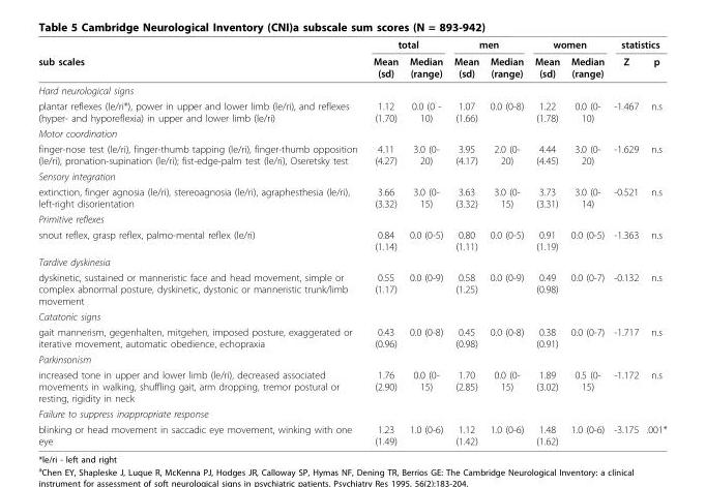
<table><thead><tr><td rowspan="2">sub scales</td><td colspan="2">total</td><td colspan="2">men</td><td colspan="2">women</td><td colspan="2">statistics</td></tr><tr><td>Mean (sd)</td><td>Median (range)</td><td>Mean (sd)</td><td>Median (range)</td><td>Mean (sd)</td><td>Median (range)</td><td>Z</td><td>p</td></tr></thead><tbody><tr><td colspan="9">Hard neurological signs</td></tr><tr><td>plantar reflexes (le/ri*), power in upper and lower limb (le/ri), and reflexes (hyper- and hyporeflexia) in upper and lower limb (le/ri)</td><td>1.12 (1.70)</td><td>0.0 (0 - 10)</td><td>1.07 (1.66)</td><td>0.0 (0-8)</td><td>1.22 (1.78)</td><td>0.0 (0- 10)</td><td>-1.467</td><td>n.s</td></tr><tr><td colspan="9">Motor coordination</td></tr><tr><td>finger-nose test (le/ri), finger-thumb tapping (le/ri), finger-thumb opposition (le/ri), pronation-supination (le/ri); fist-edge-palm test (le/ri), Oseretsky test</td><td>4.11 (4.27)</td><td>3.0 (0- 20)</td><td>3.95 (4.17)</td><td>2.0 (0- 20)</td><td>4.44 (4.45)</td><td>3.0 (0- 20)</td><td>-1.629</td><td>n.s</td></tr><tr><td colspan="9">Sensory integration</td></tr><tr><td>extinction, finger agnosia (le/ri), stereoagnosia (le/ri), agraphesthesia (le/ri), left-right disorientation</td><td>3.66 (3.32)</td><td>3.0 (0- 15)</td><td>3.63 (3.32)</td><td>3.0 (0- 15)</td><td>3.73 (3.31)</td><td>3.0 (0- 14)</td><td>-0.521</td><td>n.s</td></tr><tr><td colspan="9">Primitive reflexes</td></tr><tr><td>snout reflex, grasp reflex, palmo-mental reflex (le/ri)</td><td>0.84 (1.14)</td><td>0.0 (0-5)</td><td>0.80 (1.11)</td><td>0.0 (0-5)</td><td>0.91 (1.19)</td><td>0.0 (0-5)</td><td>-1.363</td><td>n.s</td></tr><tr><td colspan="9">Tardive dyskinesia</td></tr><tr><td>dyskinetic, sustained or manneristic face and head movement, simple or complex abnormal posture, dyskinetic, dystonic or manneristic trunk/limb movement</td><td>0.55 (1.17)</td><td>0.0 (0-9)</td><td>0.58 (1.25)</td><td>0.0 (0-9)</td><td>0.49 (0.98)</td><td>0.0 (0-7)</td><td>-0.132</td><td>n.s</td></tr><tr><td colspan="9">Catatonic signs</td></tr><tr><td>gait mannerism, gegenhalten, mitgehen, imposed posture, exaggerated or iterative movement, automatic obedience, echopraxia</td><td>0.43 (0.96)</td><td>0.0 (0-8)</td><td>0.45 (0.98)</td><td>0.0 (0-8)</td><td>0.38 (0.91)</td><td>0.0 (0-7)</td><td>-1.717</td><td>n.s</td></tr><tr><td colspan="9">Parkinsonism</td></tr><tr><td>increased tone in upper and lower limb (le/ri), decreased associated movements in walking, shuffling gait, arm dropping, tremor postural or resting, rigidity in neck</td><td>1.76 (2.90)</td><td>0.0 (0- 15)</td><td>1.70 (2.85)</td><td>0.0 (0- 15)</td><td>1.89 (3.02)</td><td>0.5 (0- 15)</td><td>-1.172</td><td>n.s</td></tr><tr><td colspan="9">Failure to suppress inappropriate response</td></tr><tr><td>blinking or head movement in saccadic eye movement, winking with one eye</td><td>1.23 (1.49)</td><td>1.0 (0-6)</td><td>1.12 (1.42)</td><td>1.0 (0-6)</td><td>1.48 (1.62)</td><td>1.0 (0-6)</td><td>-3.175</td><td>.001*</td></tr></tbody></table>